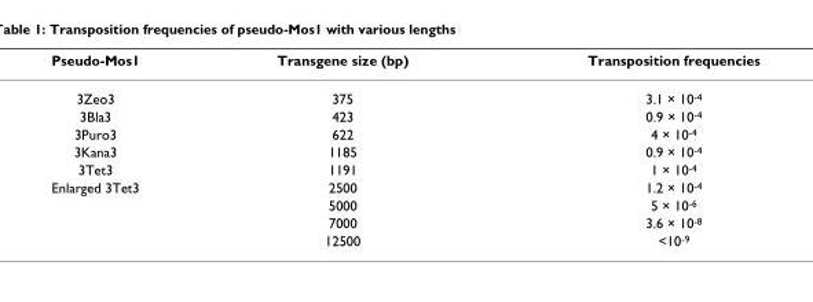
<table><thead><tr><td>Pseudo-Mos1</td><td>Transgene size (bp)</td><td>Transposition frequencies</td></tr></thead><tbody><tr><td>3Zeo3</td><td>375</td><td>3.1 × 10<sup>-4</sup></td></tr><tr><td>3Bla3</td><td>423</td><td>0.9 × 10<sup>-4</sup></td></tr><tr><td>3Puro3</td><td>622</td><td>4 × 10<sup>-4</sup></td></tr><tr><td>3Kana3</td><td>1185</td><td>0.9 × 10<sup>-4</sup></td></tr><tr><td>3Tet3</td><td>1191</td><td>1 × 10<sup>-4</sup></td></tr><tr><td rowspan="4">Enlarged 3Tet3</td><td>2500</td><td>1.2 × 10<sup>-4</sup></td></tr><tr><td>5000</td><td>5 × 10<sup>-6</sup></td></tr><tr><td>7000</td><td>3.6 × 10<sup>-8</sup></td></tr><tr><td>12500</td><td>&lt;10<sup>-9</sup></td></tr></tbody></table>